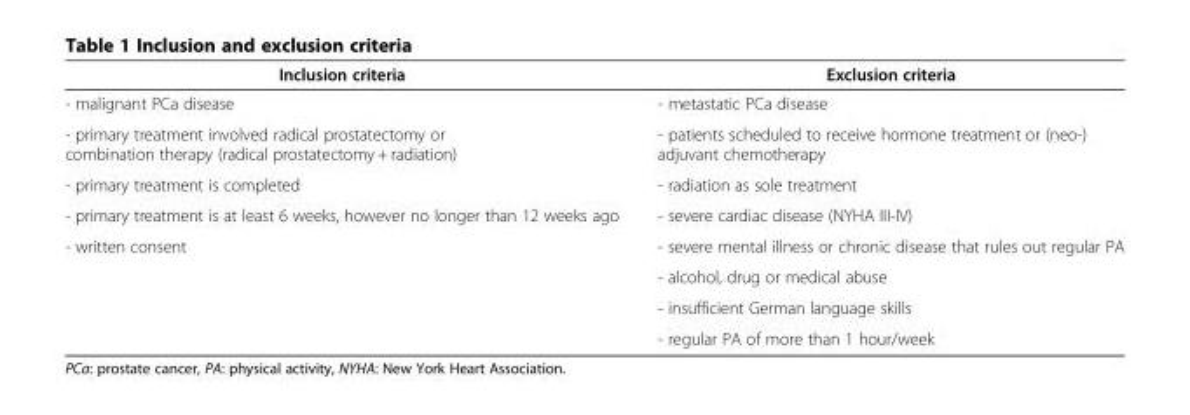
<table><thead><tr><td>Inclusion criteria</td><td>Exclusion criteria</td></tr></thead><tbody><tr><td>- malignant PCa disease</td><td>- metastatic PCa disease</td></tr><tr><td>- primary treatment involved radical prostatectomy or combination therapy (radical prostatectomy + radiation)</td><td>- patients scheduled to receive hormone treatment or (neo-) adjuvant chemotherapy</td></tr><tr><td>- primary treatment is completed</td><td>- radiation as sole treatment</td></tr><tr><td>- primary treatment is at least 6 weeks, however no longer than 12 weeks ago</td><td>- severe cardiac disease (NYHA III-IV)</td></tr><tr><td rowspan="4">- written consent</td><td>- severe mental illness or chronic disease that rules out regular PA</td></tr><tr><td>- alcohol, drug or medical abuse</td></tr><tr><td>- insufficient German language skills</td></tr><tr><td>- regular PA of more than 1 hour/week</td></tr></tbody></table>